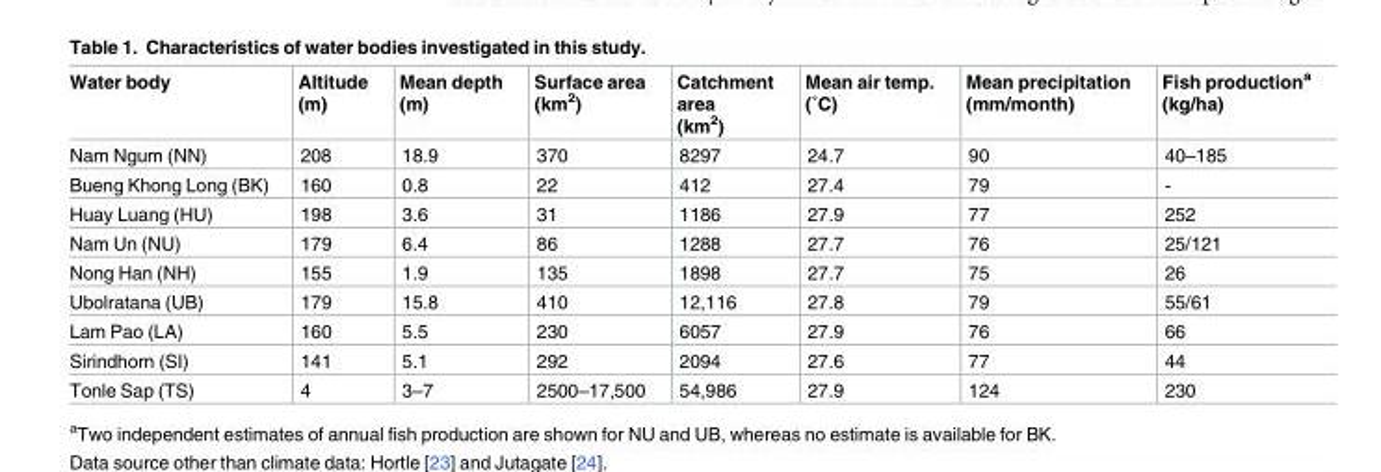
<table><thead><tr><td>Water body</td><td>Altitude (m)</td><td>Mean depth (m)</td><td>Surface area (km<sup>2</sup>)</td><td>Catchment area (km<sup>2</sup>)</td><td>Mean air temp. (˚C)</td><td>Mean precipitation (mm/month)</td><td>Fish production<sup>a</sup> (kg/ha)</td></tr></thead><tbody><tr><td>Nam Ngum (NN)</td><td>208</td><td>18.9</td><td>370</td><td>8297</td><td>24.7</td><td>90</td><td>40–185</td></tr><tr><td>Bueng Khong Long (BK)</td><td>160</td><td>0.8</td><td>22</td><td>412</td><td>27.4</td><td>79</td><td>-</td></tr><tr><td>Huay Luang (HU)</td><td>198</td><td>3.6</td><td>31</td><td>1186</td><td>27.9</td><td>77</td><td>252</td></tr><tr><td>Nam Un (NU)</td><td>179</td><td>6.4</td><td>86</td><td>1288</td><td>27.7</td><td>76</td><td>25/121</td></tr><tr><td>Nong Han (NH)</td><td>155</td><td>1.9</td><td>135</td><td>1898</td><td>27.7</td><td>75</td><td>26</td></tr><tr><td>Ubolratana (UB)</td><td>179</td><td>15.8</td><td>410</td><td>12,116</td><td>27.8</td><td>79</td><td>55/61</td></tr><tr><td>Lam Pao (LA)</td><td>160</td><td>5.5</td><td>230</td><td>6057</td><td>27.9</td><td>76</td><td>66</td></tr><tr><td>Sirindhorn (SI)</td><td>141</td><td>5.1</td><td>292</td><td>2094</td><td>27.6</td><td>77</td><td>44</td></tr><tr><td>Tonle Sap (TS)</td><td>4</td><td>3–7</td><td>2500–17,500</td><td>54,986</td><td>27.9</td><td>124</td><td>230</td></tr></tbody></table>